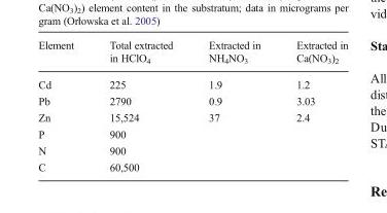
<table><thead><tr><td>Element</td><td>Total extracted in HClO<sub>4</sub></td><td>Extracted in NH<sub>4</sub>NO<sub>3</sub></td><td>Extracted in Ca(NO<sub>3</sub>)<sub>2</sub></td></tr></thead><tbody><tr><td>Cd</td><td>225</td><td>1.9</td><td>1.2</td></tr><tr><td>Pb</td><td>2790</td><td>0.9</td><td>3.03</td></tr><tr><td>Zn</td><td>15,524</td><td>37</td><td>2.4</td></tr><tr><td>P</td><td>900</td><td></td><td></td></tr><tr><td>N</td><td>900</td><td></td><td></td></tr><tr><td>C</td><td>60,500</td><td></td><td></td></tr></tbody></table>